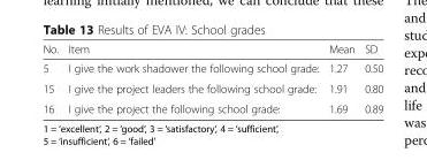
<table><thead><tr><td>No.</td><td>Item</td><td>Mean</td><td>SD</td></tr></thead><tbody><tr><td>5</td><td>I give the work shadower the following school grade:</td><td>1.27</td><td>0.50</td></tr><tr><td>15</td><td>I give the project leaders the following school grade:</td><td>1.91</td><td>0.80</td></tr><tr><td>16</td><td>I give the project the following school grade:</td><td>1.69</td><td>0.89</td></tr></tbody></table>